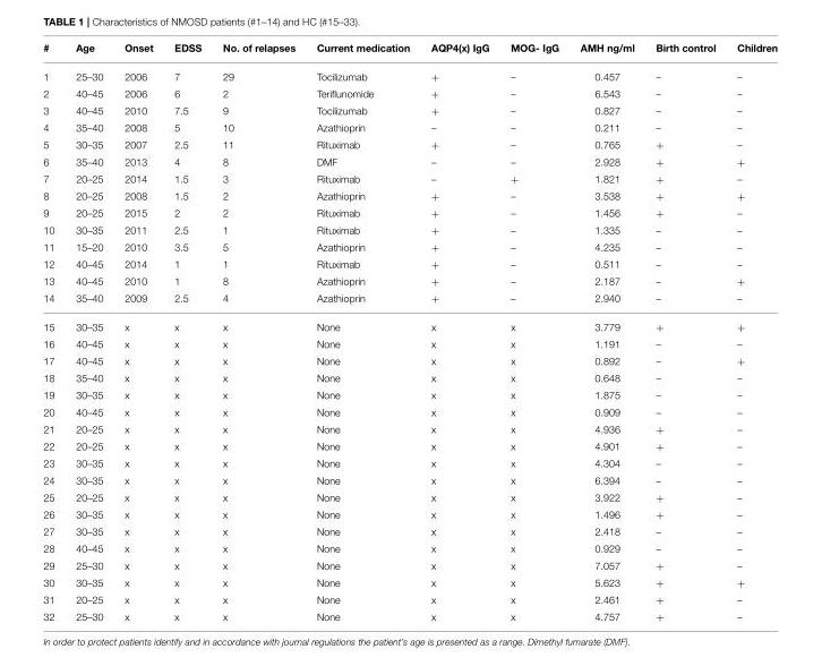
<table><thead><tr><td>#</td><td>Age</td><td>Onset</td><td>EDSS</td><td>No. of relapses</td><td>Current medication</td><td>AQP4(x) IgG</td><td>MOG- IgG</td><td>AMH ng/ml</td><td>Birth control</td><td>Children</td></tr></thead><tbody><tr><td>1</td><td>25–30</td><td>2006</td><td>7</td><td>29</td><td>Tocilizumab</td><td>+</td><td>–</td><td>0.457</td><td>–</td><td>–</td></tr><tr><td>2</td><td>40–45</td><td>2006</td><td>6</td><td>2</td><td>Teriflunomide</td><td>+</td><td>–</td><td>6.543</td><td>–</td><td>–</td></tr><tr><td>3</td><td>40–45</td><td>2010</td><td>7.5</td><td>9</td><td>Tocilizumab</td><td>+</td><td>–</td><td>0.827</td><td>–</td><td>–</td></tr><tr><td>4</td><td>35–40</td><td>2008</td><td>5</td><td>10</td><td>Azathioprin</td><td>–</td><td>–</td><td>0.211</td><td>–</td><td>–</td></tr><tr><td>5</td><td>30–35</td><td>2007</td><td>2.5</td><td>11</td><td>Rituximab</td><td>+</td><td>–</td><td>0.765</td><td>+</td><td>–</td></tr><tr><td>6</td><td>35–40</td><td>2013</td><td>4</td><td>8</td><td>DMF</td><td>–</td><td>–</td><td>2.928</td><td>+</td><td>+</td></tr><tr><td>7</td><td>20–25</td><td>2014</td><td>1.5</td><td>3</td><td>Rituximab</td><td>–</td><td>+</td><td>1.821</td><td>+</td><td>–</td></tr><tr><td>8</td><td>20–25</td><td>2008</td><td>1.5</td><td>2</td><td>Azathioprin</td><td>+</td><td>–</td><td>3.538</td><td>+</td><td>+</td></tr><tr><td>9</td><td>20–25</td><td>2015</td><td>2</td><td>2</td><td>Rituximab</td><td>+</td><td>–</td><td>1.456</td><td>+</td><td>–</td></tr><tr><td>10</td><td>30–35</td><td>2011</td><td>2.5</td><td>1</td><td>Rituximab</td><td>+</td><td>–</td><td>1.335</td><td>–</td><td>–</td></tr><tr><td>11</td><td>15–20</td><td>2010</td><td>3.5</td><td>5</td><td>Azathioprin</td><td>+</td><td>–</td><td>4.235</td><td>–</td><td>–</td></tr><tr><td>12</td><td>40–45</td><td>2014</td><td>1</td><td>1</td><td>Rituximab</td><td>+</td><td>–</td><td>0.511</td><td>–</td><td>–</td></tr><tr><td>13</td><td>40–45</td><td>2010</td><td>1</td><td>8</td><td>Azathioprin</td><td>+</td><td>–</td><td>2.187</td><td>–</td><td>+</td></tr><tr><td>14</td><td>35–40</td><td>2009</td><td>2.5</td><td>4</td><td>Azathioprin</td><td>+</td><td>–</td><td>2.940</td><td>–</td><td>–</td></tr><tr><td>15</td><td>30–35</td><td>x</td><td>x</td><td>x</td><td>None</td><td>x</td><td>x</td><td>3.779</td><td>+</td><td>+</td></tr><tr><td>16</td><td>40–45</td><td>x</td><td>x</td><td>x</td><td>None</td><td>x</td><td>x</td><td>1.191</td><td>–</td><td>–</td></tr><tr><td>17</td><td>40–45</td><td>x</td><td>x</td><td>x</td><td>None</td><td>x</td><td>x</td><td>0.892</td><td>–</td><td>+</td></tr><tr><td>18</td><td>35–40</td><td>x</td><td>x</td><td>x</td><td>None</td><td>x</td><td>x</td><td>0.648</td><td>–</td><td>–</td></tr><tr><td>19</td><td>30–35</td><td>x</td><td>x</td><td>x</td><td>None</td><td>x</td><td>x</td><td>1.875</td><td>–</td><td>–</td></tr><tr><td>20</td><td>40–45</td><td>x</td><td>x</td><td>x</td><td>None</td><td>x</td><td>x</td><td>0.909</td><td>–</td><td>–</td></tr><tr><td>21</td><td>20–25</td><td>x</td><td>x</td><td>x</td><td>None</td><td>x</td><td>x</td><td>4.936</td><td>+</td><td>–</td></tr><tr><td>22</td><td>20–25</td><td>x</td><td>x</td><td>x</td><td>None</td><td>x</td><td>x</td><td>4.901</td><td>+</td><td>–</td></tr><tr><td>23</td><td>30–35</td><td>x</td><td>x</td><td>x</td><td>None</td><td>x</td><td>x</td><td>4.304</td><td>–</td><td>–</td></tr><tr><td>24</td><td>30–35</td><td>x</td><td>x</td><td>x</td><td>None</td><td>x</td><td>x</td><td>6.394</td><td>–</td><td>–</td></tr><tr><td>25</td><td>20–25</td><td>x</td><td>x</td><td>x</td><td>None</td><td>x</td><td>x</td><td>3.922</td><td>+</td><td>–</td></tr><tr><td>26</td><td>30–35</td><td>x</td><td>x</td><td>x</td><td>None</td><td>x</td><td>x</td><td>1.496</td><td>+</td><td>–</td></tr><tr><td>27</td><td>30–35</td><td>x</td><td>x</td><td>x</td><td>None</td><td>x</td><td>x</td><td>2.418</td><td>–</td><td>–</td></tr><tr><td>28</td><td>40–45</td><td>x</td><td>x</td><td>x</td><td>None</td><td>x</td><td>x</td><td>0.929</td><td>–</td><td>–</td></tr><tr><td>29</td><td>25–30</td><td>x</td><td>x</td><td>x</td><td>None</td><td>x</td><td>x</td><td>7.057</td><td>+</td><td>–</td></tr><tr><td>30</td><td>30–35</td><td>x</td><td>x</td><td>x</td><td>None</td><td>x</td><td>x</td><td>5.623</td><td>+</td><td>+</td></tr><tr><td>31</td><td>20–25</td><td>x</td><td>x</td><td>x</td><td>None</td><td>x</td><td>x</td><td>2.461</td><td>+</td><td>–</td></tr><tr><td>32</td><td>25–30</td><td>x</td><td>x</td><td>x</td><td>None</td><td>x</td><td>x</td><td>4.757</td><td>+</td><td>–</td></tr></tbody></table>